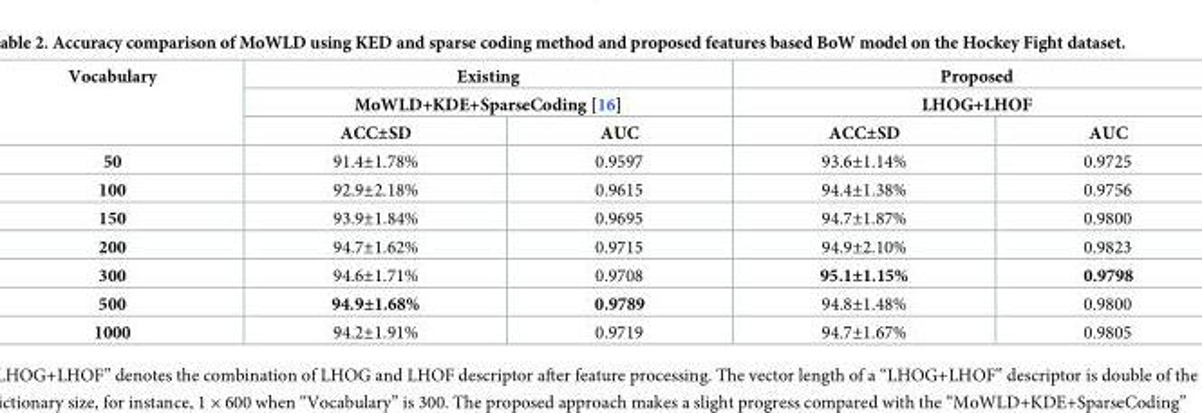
<table><thead><tr><td rowspan="3">Vocabulary</td><td rowspan="2" colspan="2">Existing MoWLD+KDE+SparseCoding [16]</td><td rowspan="2" colspan="2">Proposed LHOG+LHOF</td></tr><tr></tr><tr><td>ACC±SD</td><td>AUC</td><td>ACC±SD</td><td>AUC</td></tr></thead><tbody><tr><td>50</td><td>91.4±1.78%</td><td>0.9597</td><td>93.6±1.14%</td><td>0.9725</td></tr><tr><td>100</td><td>92.9±2.18%</td><td>0.9615</td><td>94.4±1.38%</td><td>0.9756</td></tr><tr><td>150</td><td>93.9±1.84%</td><td>0.9695</td><td>94.7±1.87%</td><td>0.9800</td></tr><tr><td>200</td><td>94.7±1.62%</td><td>0.9715</td><td>94.9±2.10%</td><td>0.9823</td></tr><tr><td>300</td><td>94.6±1.71%</td><td>0.9708</td><td>95.1±1.15%</td><td>0.9798</td></tr><tr><td>500</td><td>94.9±1.68%</td><td>0.9789</td><td>94.8±1.48%</td><td>0.9800</td></tr><tr><td>1000</td><td>94.2±1.91%</td><td>0.9719</td><td>94.7±1.67%</td><td>0.9805</td></tr></tbody></table>